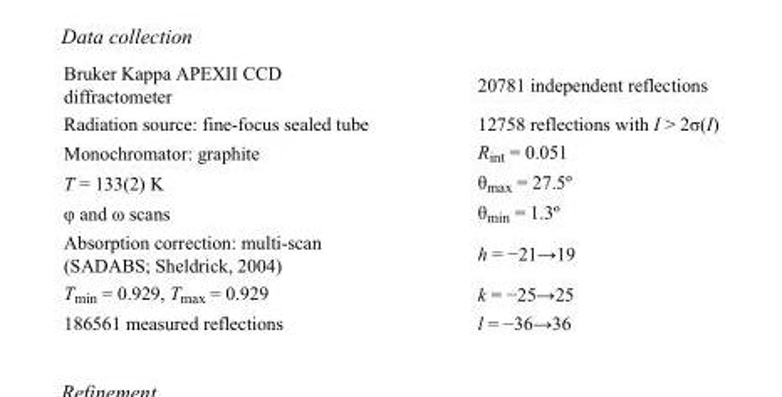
<table><tbody><tr><td>Bruker Kappa APEXII CCD diffractometer</td><td>20781 independent reflections</td></tr><tr><td>Radiation source: fine-focus sealed tube</td><td>12758 reflections with I &gt; 2σ(I)</td></tr><tr><td>Monochromator: graphite</td><td>R<sub>int</sub> = 0.051</td></tr><tr><td>T = 133(2) K</td><td>θ<sub>max</sub> = 27.5º</td></tr><tr><td>φ and ω scans</td><td>θ<sub>min</sub> = 1.3º</td></tr><tr><td>Absorption correction: multi-scan (SADABS; Sheldrick, 2004)</td><td>h = −21→19</td></tr><tr><td>T<sub>min</sub> = 0.929, T<sub>max</sub> = 0.929</td><td>k = −25→25</td></tr><tr><td>186561 measured reflections</td><td>l = −36→36</td></tr></tbody></table>